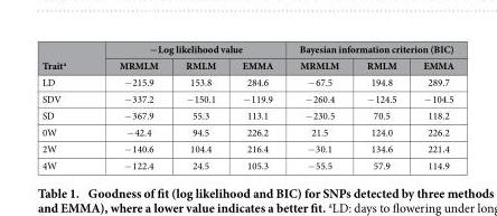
<table><thead><tr><td rowspan="2">Trait<sup>a</sup></td><td colspan="3">−Log likelihood value</td><td colspan="3">Bayesian information criterion (BIC)</td></tr><tr><td>MRMLM</td><td>RMLM</td><td>EMMA</td><td>MRMLM</td><td>RMLM</td><td>EMMA</td></tr></thead><tbody><tr><td>LD</td><td>− 215.9</td><td>153.8</td><td>284.6</td><td>− 67.5</td><td>194.8</td><td>289.7</td></tr><tr><td>SDV</td><td>− 337.2</td><td>− 150.1</td><td>− 119.9</td><td>− 260.4</td><td>− 124.5</td><td>− 104.5</td></tr><tr><td>SD</td><td>− 367.9</td><td>55.3</td><td>113.1</td><td>− 230.5</td><td>70.5</td><td>118.2</td></tr><tr><td>0W</td><td>− 42.4</td><td>94.5</td><td>226.2</td><td>21.5</td><td>124.0</td><td>226.2</td></tr><tr><td>2W</td><td>− 140.6</td><td>104.4</td><td>216.4</td><td>− 30.1</td><td>134.6</td><td>221.4</td></tr><tr><td>4W</td><td>− 122.4</td><td>24.5</td><td>105.3</td><td>− 55.5</td><td>57.9</td><td>114.9</td></tr></tbody></table>